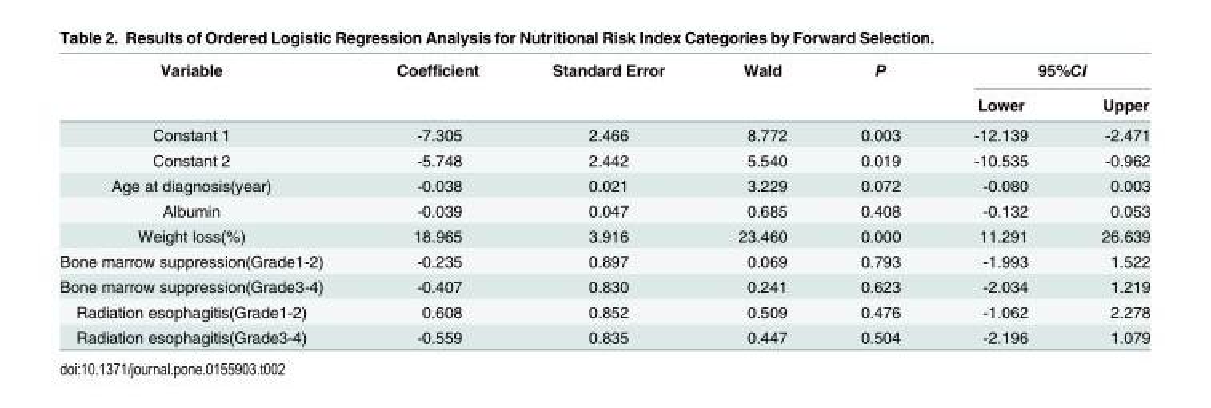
<table><thead><tr><td rowspan="2">Variable</td><td rowspan="2">Coefficient</td><td rowspan="2">Standard Error</td><td rowspan="2">Wald</td><td rowspan="2">P</td><td colspan="2">95%CI</td></tr><tr><td>Lower</td><td>Upper</td></tr></thead><tbody><tr><td>Constant 1</td><td>-7.305</td><td>2.466</td><td>8.772</td><td>0.003</td><td>-12.139</td><td>-2.471</td></tr><tr><td>Constant 2</td><td>-5.748</td><td>2.442</td><td>5.540</td><td>0.019</td><td>-10.535</td><td>-0.962</td></tr><tr><td>Age at diagnosis(year)</td><td>-0.038</td><td>0.021</td><td>3.229</td><td>0.072</td><td>-0.080</td><td>0.003</td></tr><tr><td>Albumin</td><td>-0.039</td><td>0.047</td><td>0.685</td><td>0.408</td><td>-0.132</td><td>0.053</td></tr><tr><td>Weight loss(%)</td><td>18.965</td><td>3.916</td><td>23.460</td><td>0.000</td><td>11.291</td><td>26.639</td></tr><tr><td>Bone marrow suppression(Grade1-2)</td><td>-0.235</td><td>0.897</td><td>0.069</td><td>0.793</td><td>-1.993</td><td>1.522</td></tr><tr><td>Bone marrow suppression(Grade3-4)</td><td>-0.407</td><td>0.830</td><td>0.241</td><td>0.623</td><td>-2.034</td><td>1.219</td></tr><tr><td>Radiation esophagitis(Grade1-2)</td><td>0.608</td><td>0.852</td><td>0.509</td><td>0.476</td><td>-1.062</td><td>2.278</td></tr><tr><td>Radiation esophagitis(Grade3-4)</td><td>-0.559</td><td>0.835</td><td>0.447</td><td>0.504</td><td>-2.196</td><td>1.079</td></tr></tbody></table>